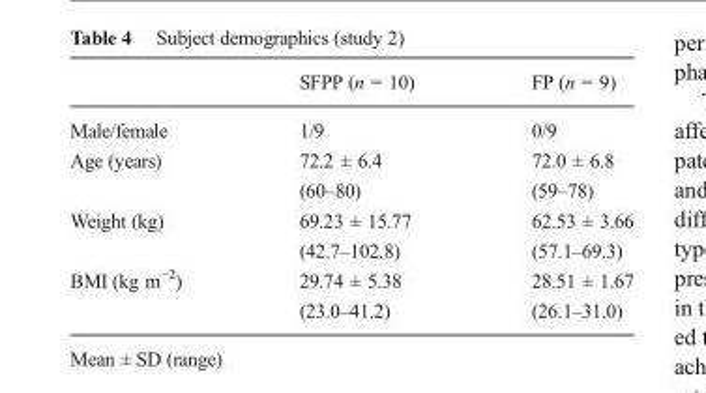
<table><thead><tr><td></td><td>SFPP (n = 10)</td><td>FP (n = 9)</td></tr></thead><tbody><tr><td>Male/female</td><td>1/9</td><td>0/9</td></tr><tr><td rowspan="2">Age (years)</td><td>72.2 ± 6.4</td><td>72.0 ± 6.8</td></tr><tr><td>(60–80)</td><td>(59–78)</td></tr><tr><td rowspan="2">Weight (kg)</td><td>69.23 ± 15.77</td><td>62.53 ± 3.66</td></tr><tr><td>(42.7–102.8)</td><td>(57.1–69.3)</td></tr><tr><td rowspan="2">BMI (kg m<sup>−2</sup>)</td><td>29.74 ± 5.38</td><td>28.51 ± 1.67</td></tr><tr><td>(23.0–41.2)</td><td>(26.1–31.0)</td></tr></tbody></table>